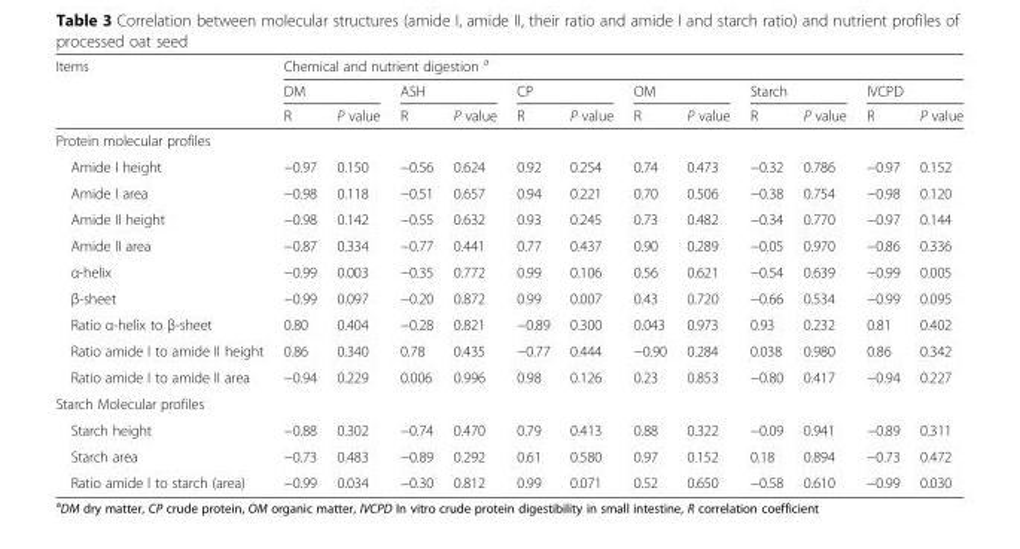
<table><thead><tr><td rowspan="3">Items</td><td colspan="12">Chemical and nutrient digestion <sup>a</sup></td></tr><tr><td colspan="2">DM</td><td colspan="2">ASH</td><td colspan="2">CP</td><td colspan="2">OM</td><td colspan="2">Starch</td><td colspan="2">IVCPD</td></tr><tr><td>R</td><td>P value</td><td>R</td><td>P value</td><td>R</td><td>P value</td><td>R</td><td>P value</td><td>R</td><td>P value</td><td>R</td><td>P value</td></tr></thead><tbody><tr><td colspan="13">Protein molecular profiles</td></tr><tr><td>Amide I height</td><td>−0.97</td><td>0.150</td><td>−0.56</td><td>0.624</td><td>0.92</td><td>0.254</td><td>0.74</td><td>0.473</td><td>−0.32</td><td>0.786</td><td>−0.97</td><td>0.152</td></tr><tr><td>Amide I area</td><td>−0.98</td><td>0.118</td><td>−0.51</td><td>0.657</td><td>0.94</td><td>0.221</td><td>0.70</td><td>0.506</td><td>−0.38</td><td>0.754</td><td>−0.98</td><td>0.120</td></tr><tr><td>Amide II height</td><td>−0.98</td><td>0.142</td><td>−0.55</td><td>0.632</td><td>0.93</td><td>0.245</td><td>0.73</td><td>0.482</td><td>−0.34</td><td>0.770</td><td>−0.97</td><td>0.144</td></tr><tr><td>Amide II area</td><td>−0.87</td><td>0.334</td><td>−0.77</td><td>0.441</td><td>0.77</td><td>0.437</td><td>0.90</td><td>0.289</td><td>−0.05</td><td>0.970</td><td>−0.86</td><td>0.336</td></tr><tr><td>α-helix</td><td>−0.99</td><td>0.003</td><td>−0.35</td><td>0.772</td><td>0.99</td><td>0.106</td><td>0.56</td><td>0.621</td><td>−0.54</td><td>0.639</td><td>−0.99</td><td>0.005</td></tr><tr><td>β-sheet</td><td>−0.99</td><td>0.097</td><td>−0.20</td><td>0.872</td><td>0.99</td><td>0.007</td><td>0.43</td><td>0.720</td><td>−0.66</td><td>0.534</td><td>−0.99</td><td>0.095</td></tr><tr><td>Ratio α-helix to β-sheet</td><td>0.80</td><td>0.404</td><td>−0.28</td><td>0.821</td><td>−0.89</td><td>0.300</td><td>0.043</td><td>0.973</td><td>0.93</td><td>0.232</td><td>0.81</td><td>0.402</td></tr><tr><td>Ratio amide I to amide II height</td><td>0.86</td><td>0.340</td><td>0.78</td><td>0.435</td><td>−0.77</td><td>0.444</td><td>−0.90</td><td>0.284</td><td>0.038</td><td>0.980</td><td>0.86</td><td>0.342</td></tr><tr><td>Ratio amide I to amide II area</td><td>−0.94</td><td>0.229</td><td>0.006</td><td>0.996</td><td>0.98</td><td>0.126</td><td>0.23</td><td>0.853</td><td>−0.80</td><td>0.417</td><td>−0.94</td><td>0.227</td></tr><tr><td colspan="13">Starch Molecular profiles</td></tr><tr><td>Starch height</td><td>−0.88</td><td>0.302</td><td>−0.74</td><td>0.470</td><td>0.79</td><td>0.413</td><td>0.88</td><td>0.322</td><td>−0.09</td><td>0.941</td><td>−0.89</td><td>0.311</td></tr><tr><td>Starch area</td><td>−0.73</td><td>0.483</td><td>−0.89</td><td>0.292</td><td>0.61</td><td>0.580</td><td>0.97</td><td>0.152</td><td>0.18</td><td>0.894</td><td>−0.73</td><td>0.472</td></tr><tr><td>Ratio amide I to starch (area)</td><td>−0.99</td><td>0.034</td><td>−0.30</td><td>0.812</td><td>0.99</td><td>0.071</td><td>0.52</td><td>0.650</td><td>−0.58</td><td>0.610</td><td>−0.99</td><td>0.030</td></tr></tbody></table>